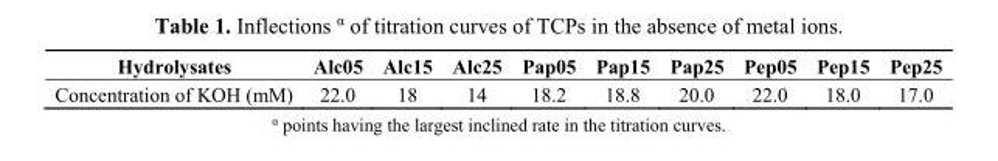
<table><thead><tr><td>Hydrolysates</td><td>Alc05</td><td>Alc15</td><td>Alc25</td><td>Pap05</td><td>Pap15</td><td>Pap25</td><td>Pep05</td><td>Pep15</td><td>Pep25</td></tr></thead><tbody><tr><td>Concentration of KOH (mM)</td><td>22.0</td><td>18</td><td>14</td><td>18.2</td><td>18.8</td><td>20.0</td><td>22.0</td><td>18.0</td><td>17.0</td></tr></tbody></table>